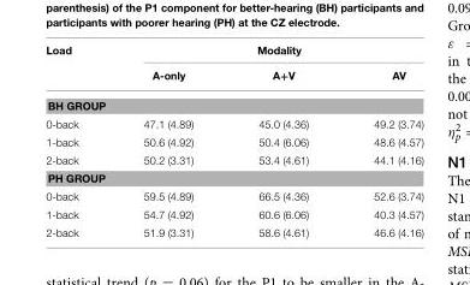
<table><thead><tr><td rowspan="2">Load</td><td colspan="3">Modality</td></tr><tr><td>A-only</td><td>A+V</td><td>AV</td></tr></thead><tbody><tr><td colspan="4">BH GROUP</td></tr><tr><td>0-back</td><td>47.1 (4.89)</td><td>45.0 (4.36)</td><td>49.2 (3.74)</td></tr><tr><td>1-back</td><td>50.6 (4.92)</td><td>50.4 (6.06)</td><td>48.6 (4.57)</td></tr><tr><td>2-back</td><td>50.2 (3.31)</td><td>53.4 (4.61)</td><td>44.1 (4.16)</td></tr><tr><td colspan="4">PH GROUP</td></tr><tr><td>0-back</td><td>59.5 (4.89)</td><td>66.5 (4.36)</td><td>52.6 (3.74)</td></tr><tr><td>1-back</td><td>54.7 (4.92)</td><td>60.6 (6.06)</td><td>40.3 (4.57)</td></tr><tr><td>2-back</td><td>51.9 (3.31)</td><td>58.6 (4.61)</td><td>46.6 (4.16)</td></tr></tbody></table>